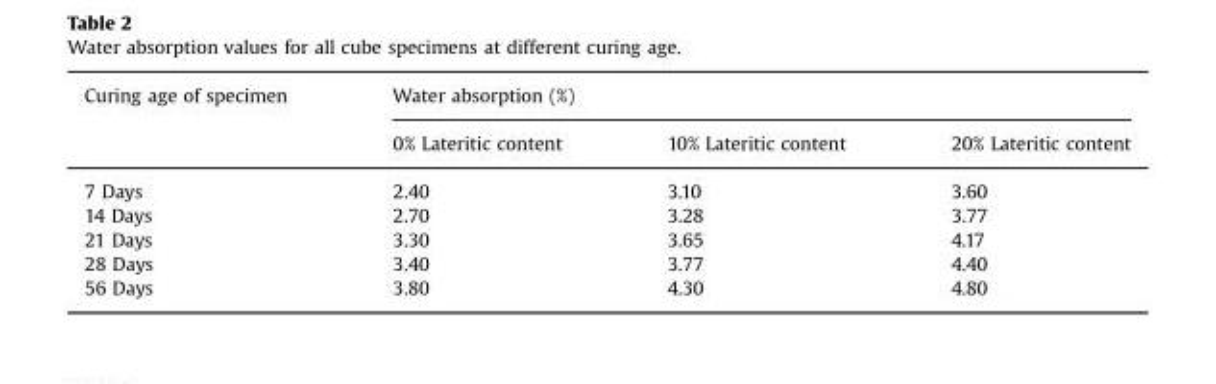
<table><thead><tr><td rowspan="2">Curing age of specimen</td><td colspan="3">Water absorption (%)</td></tr><tr><td>0% Lateritic content</td><td>10% Lateritic content</td><td>20% Lateritic content</td></tr></thead><tbody><tr><td>7 Days</td><td>2.40</td><td>3.10</td><td>3.60</td></tr><tr><td>14 Days</td><td>2.70</td><td>3.28</td><td>3.77</td></tr><tr><td>21 Days</td><td>3.30</td><td>3.65</td><td>4.17</td></tr><tr><td>28 Days</td><td>3.40</td><td>3.77</td><td>4.40</td></tr><tr><td>56 Days</td><td>3.80</td><td>4.30</td><td>4.80</td></tr></tbody></table>